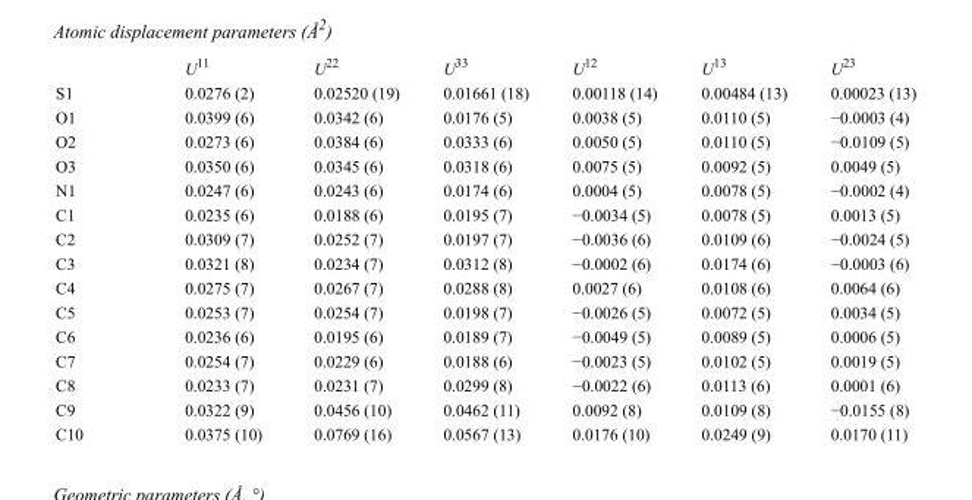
<table><thead><tr><td></td><td>U<sup>11</sup></td><td>U<sup>22</sup></td><td>U<sup>33</sup></td><td>U<sup>12</sup></td><td>U<sup>13</sup></td><td>U<sup>23</sup></td></tr></thead><tbody><tr><td>S1</td><td>0.0276 (2)</td><td>0.02520 (19)</td><td>0.01661 (18)</td><td>0.00118 (14)</td><td>0.00484 (13)</td><td>0.00023 (13)</td></tr><tr><td>O1</td><td>0.0399 (6)</td><td>0.0342 (6)</td><td>0.0176 (5)</td><td>0.0038 (5)</td><td>0.0110 (5)</td><td>−0.0003 (4)</td></tr><tr><td>O2</td><td>0.0273 (6)</td><td>0.0384 (6)</td><td>0.0333 (6)</td><td>0.0050 (5)</td><td>0.0110 (5)</td><td>−0.0109 (5)</td></tr><tr><td>O3</td><td>0.0350 (6)</td><td>0.0345 (6)</td><td>0.0318 (6)</td><td>0.0075 (5)</td><td>0.0092 (5)</td><td>0.0049 (5)</td></tr><tr><td>N1</td><td>0.0247 (6)</td><td>0.0243 (6)</td><td>0.0174 (6)</td><td>0.0004 (5)</td><td>0.0078 (5)</td><td>−0.0002 (4)</td></tr><tr><td>C1</td><td>0.0235 (6)</td><td>0.0188 (6)</td><td>0.0195 (7)</td><td>−0.0034 (5)</td><td>0.0078 (5)</td><td>0.0013 (5)</td></tr><tr><td>C2</td><td>0.0309 (7)</td><td>0.0252 (7)</td><td>0.0197 (7)</td><td>−0.0036 (6)</td><td>0.0109 (6)</td><td>−0.0024 (5)</td></tr><tr><td>C3</td><td>0.0321 (8)</td><td>0.0234 (7)</td><td>0.0312 (8)</td><td>−0.0002 (6)</td><td>0.0174 (6)</td><td>−0.0003 (6)</td></tr><tr><td>C4</td><td>0.0275 (7)</td><td>0.0267 (7)</td><td>0.0288 (8)</td><td>0.0027 (6)</td><td>0.0108 (6)</td><td>0.0064 (6)</td></tr><tr><td>C5</td><td>0.0253 (7)</td><td>0.0254 (7)</td><td>0.0198 (7)</td><td>−0.0026 (5)</td><td>0.0072 (5)</td><td>0.0034 (5)</td></tr><tr><td>C6</td><td>0.0236 (6)</td><td>0.0195 (6)</td><td>0.0189 (7)</td><td>−0.0049 (5)</td><td>0.0089 (5)</td><td>0.0006 (5)</td></tr><tr><td>C7</td><td>0.0254 (7)</td><td>0.0229 (6)</td><td>0.0188 (6)</td><td>−0.0023 (5)</td><td>0.0102 (5)</td><td>0.0019 (5)</td></tr><tr><td>C8</td><td>0.0233 (7)</td><td>0.0231 (7)</td><td>0.0299 (8)</td><td>−0.0022 (6)</td><td>0.0113 (6)</td><td>0.0001 (6)</td></tr><tr><td>C9</td><td>0.0322 (9)</td><td>0.0456 (10)</td><td>0.0462 (11)</td><td>0.0092 (8)</td><td>0.0109 (8)</td><td>−0.0155 (8)</td></tr><tr><td>C10</td><td>0.0375 (10)</td><td>0.0769 (16)</td><td>0.0567 (13)</td><td>0.0176 (10)</td><td>0.0249 (9)</td><td>0.0170 (11)</td></tr></tbody></table>